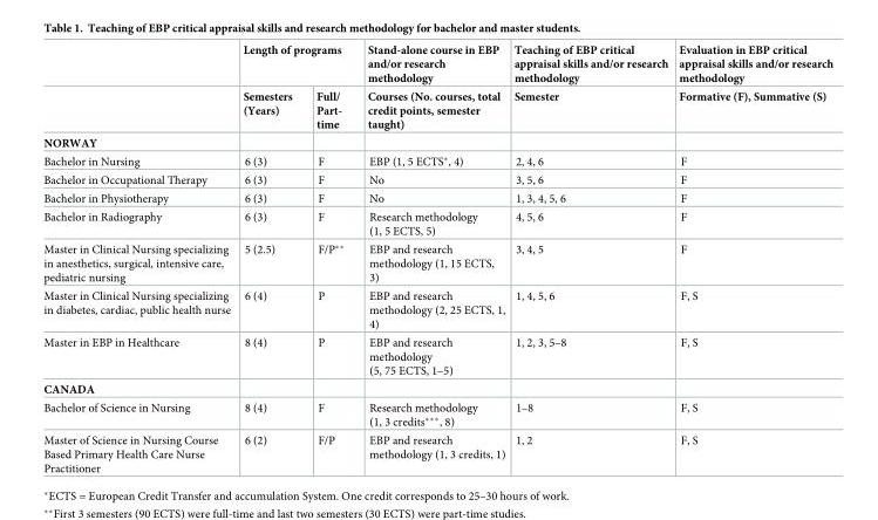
<table><thead><tr><td rowspan="2"></td><td colspan="2">Length of programs</td><td rowspan="2">Stand-alone course in EBP and/or research methodology Courses (No. courses, total credit points, semester taught)</td><td rowspan="2">Teaching of EBP critical appraisal skills and/or research methodology Semester</td><td rowspan="2">Evaluation in EBP critical appraisal skills and/or research methodology Formative (F), Summative (S)</td></tr><tr><td>Semesters (Years)</td><td>Full/ Part- time</td></tr></thead><tbody><tr><td colspan="6">NORWAY</td></tr><tr><td>Bachelor in Nursing</td><td>6 (3)</td><td>F</td><td>EBP (1, 5 ECTS*, 4)</td><td>2, 4, 6</td><td>F</td></tr><tr><td>Bachelor in Occupational Therapy</td><td>6 (3)</td><td>F</td><td>No</td><td>3, 5, 6</td><td>F</td></tr><tr><td>Bachelor in Physiotherapy</td><td>6 (3)</td><td>F</td><td>No</td><td>1, 3, 4, 5, 6</td><td>F</td></tr><tr><td>Bachelor in Radiography</td><td>6 (3)</td><td>F</td><td>Research methodology (1, 5 ECTS, 5)</td><td>4, 5, 6</td><td>F</td></tr><tr><td>Master in Clinical Nursing specializing in anesthetics, surgical, intensive care, pediatric nursing</td><td>5 (2.5)</td><td>F/P**</td><td>EBP and research methodology (1, 15 ECTS, 3)</td><td>3, 4, 5</td><td>F</td></tr><tr><td>Master in Clinical Nursing specializing in diabetes, cardiac, public health nurse</td><td>6 (4)</td><td>P</td><td>EBP and research methodology (2, 25 ECTS, 1, 4)</td><td>1, 4, 5, 6</td><td>F, S</td></tr><tr><td>Master in EBP in Healthcare</td><td>8 (4)</td><td>P</td><td>EBP and research methodology (5, 75 ECTS, 1–5)</td><td>1, 2, 3, 5–8</td><td>F, S</td></tr><tr><td colspan="6">CANADA</td></tr><tr><td>Bachelor of Science in Nursing</td><td>8 (4)</td><td>F</td><td>Research methodology (1, 3 credits***, 8)</td><td>1–8</td><td>F, S</td></tr><tr><td>Master of Science in Nursing Course Based Primary Health Care Nurse Practitioner</td><td>6 (2)</td><td>F/P</td><td>EBP and research methodology (1, 3 credits, 1)</td><td>1, 2</td><td>F, S</td></tr></tbody></table>